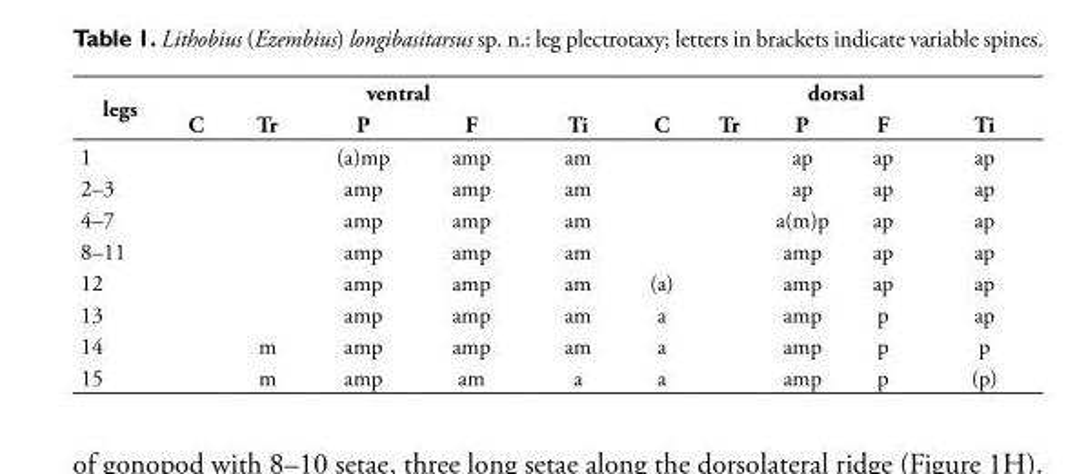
<table><thead><tr><td rowspan="2">legs</td><td colspan="5">ventral</td><td colspan="5">dorsal</td></tr><tr><td>C</td><td>Tr</td><td>P</td><td>F</td><td>Ti</td><td>C</td><td>Tr</td><td>P</td><td>F</td><td>Ti</td></tr></thead><tbody><tr><td>1</td><td></td><td></td><td>(a)mp</td><td>amp</td><td>am</td><td></td><td></td><td>ap</td><td>ap</td><td>ap</td></tr><tr><td>2–3</td><td></td><td></td><td>amp</td><td>amp</td><td>am</td><td></td><td></td><td>ap</td><td>ap</td><td>ap</td></tr><tr><td>4–7</td><td></td><td></td><td>amp</td><td>amp</td><td>am</td><td></td><td></td><td>a(m)p</td><td>ap</td><td>ap</td></tr><tr><td>8–11</td><td></td><td></td><td>amp</td><td>amp</td><td>am</td><td></td><td></td><td>amp</td><td>ap</td><td>ap</td></tr><tr><td>12</td><td></td><td></td><td>amp</td><td>amp</td><td>am</td><td>(a)</td><td></td><td>amp</td><td>ap</td><td>ap</td></tr><tr><td>13</td><td></td><td></td><td>amp</td><td>amp</td><td>am</td><td>a</td><td></td><td>amp</td><td>p</td><td>ap</td></tr><tr><td>14</td><td></td><td>m</td><td>amp</td><td>amp</td><td>am</td><td>a</td><td></td><td>amp</td><td>p</td><td>p</td></tr><tr><td>15</td><td></td><td>m</td><td>amp</td><td>am</td><td>a</td><td>a</td><td></td><td>amp</td><td>p</td><td>(p)</td></tr></tbody></table>